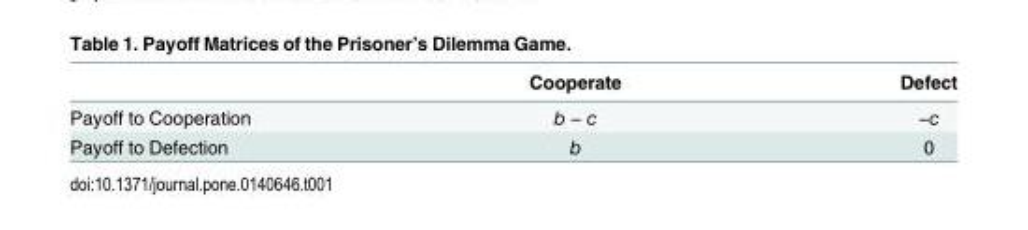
<table><thead><tr><td></td><td>Cooperate</td><td>Defect</td></tr></thead><tbody><tr><td>Payoff to Cooperation</td><td>b − c</td><td>−c</td></tr><tr><td>Payoff to Defection</td><td>b</td><td>0</td></tr></tbody></table>